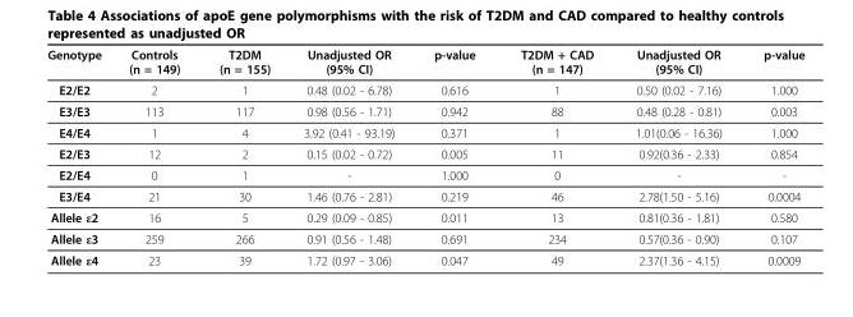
<table><thead><tr><td>Genotype</td><td>Controls (n = 149)</td><td>T2DM (n = 155)</td><td>Unadjusted OR (95% CI)</td><td>p-value</td><td>T2DM + CAD (n = 147)</td><td>Unadjusted OR (95% CI)</td><td>p-value</td></tr></thead><tbody><tr><td>E2/E2</td><td>2</td><td>1</td><td>0.48 (0.02 - 6.78)</td><td>0.616</td><td>1</td><td>0.50 (0.02 - 7.16)</td><td>1.000</td></tr><tr><td>E3/E3</td><td>113</td><td>117</td><td>0.98 (0.56 - 1.71)</td><td>0.942</td><td>88</td><td>0.48 (0.28 - 0.81)</td><td>0.003</td></tr><tr><td>E4/E4</td><td>1</td><td>4</td><td>3.92 (0.41 - 93.19)</td><td>0.371</td><td>1</td><td>1.01(0.06 - 16.36)</td><td>1.000</td></tr><tr><td>E2/E3</td><td>12</td><td>2</td><td>0.15 (0.02 - 0.72)</td><td>0.005</td><td>11</td><td>0.92(0.36 - 2.33)</td><td>0.854</td></tr><tr><td>E2/E4</td><td>0</td><td>1</td><td>-</td><td>1.000</td><td>0</td><td>-</td><td>-</td></tr><tr><td>E3/E4</td><td>21</td><td>30</td><td>1.46 (0.76 - 2.81)</td><td>0.219</td><td>46</td><td>2.78(1.50 - 5.16)</td><td>0.0004</td></tr><tr><td>Allele ε2</td><td>16</td><td>5</td><td>0.29 (0.09 - 0.85)</td><td>0.011</td><td>13</td><td>0.81(0.36 - 1.81)</td><td>0.580</td></tr><tr><td>Allele ε3</td><td>259</td><td>266</td><td>0.91 (0.56 - 1.48)</td><td>0.691</td><td>234</td><td>0.57(0.36 - 0.90)</td><td>0.107</td></tr><tr><td>Allele ε4</td><td>23</td><td>39</td><td>1.72 (0.97 - 3.06)</td><td>0.047</td><td>49</td><td>2.37(1.36 - 4.15)</td><td>0.0009</td></tr></tbody></table>